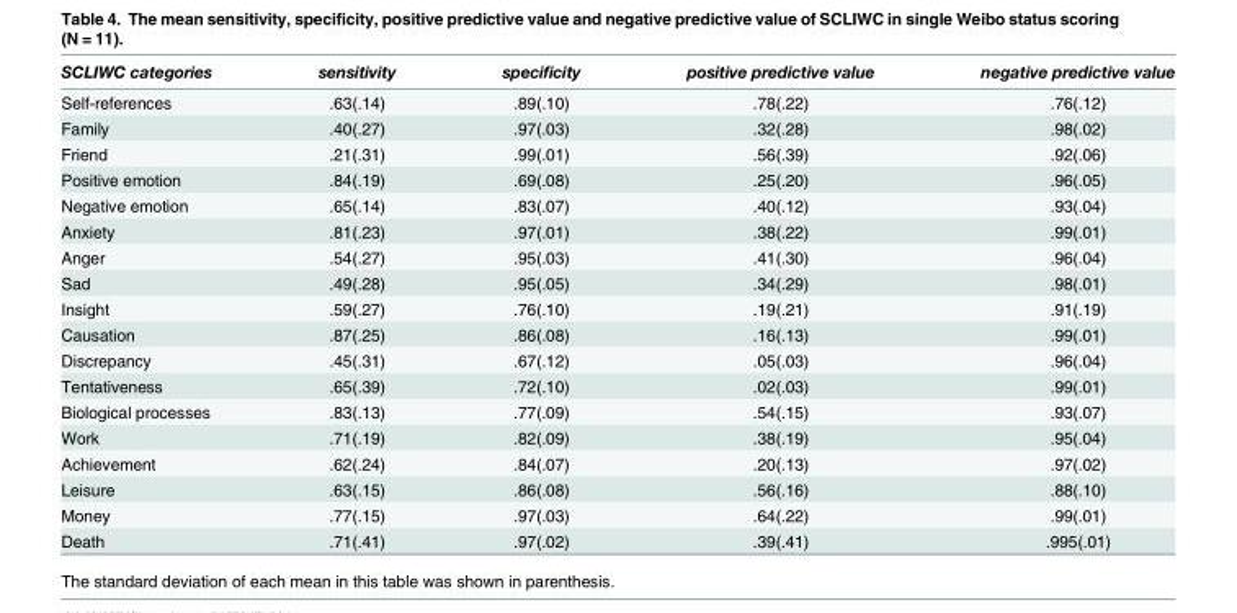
<table><thead><tr><td>SCLIWC categories</td><td>sensitivity</td><td>specificity</td><td>positive predictive value</td><td>negative predictive value</td></tr></thead><tbody><tr><td>Self-references</td><td>.63(.14)</td><td>.89(.10)</td><td>.78(.22)</td><td>.76(.12)</td></tr><tr><td>Family</td><td>.40(.27)</td><td>.97(.03)</td><td>.32(.28)</td><td>.98(.02)</td></tr><tr><td>Friend</td><td>.21(.31)</td><td>.99(.01)</td><td>.56(.39)</td><td>.92(.06)</td></tr><tr><td>Positive emotion</td><td>.84(.19)</td><td>.69(.08)</td><td>.25(.20)</td><td>.96(.05)</td></tr><tr><td>Negative emotion</td><td>.65(.14)</td><td>.83(.07)</td><td>.40(.12)</td><td>.93(.04)</td></tr><tr><td>Anxiety</td><td>.81(.23)</td><td>.97(.01)</td><td>.38(.22)</td><td>.99(.01)</td></tr><tr><td>Anger</td><td>.54(.27)</td><td>.95(.03)</td><td>.41(.30)</td><td>.96(.04)</td></tr><tr><td>Sad</td><td>.49(.28)</td><td>.95(.05)</td><td>.34(.29)</td><td>.98(.01)</td></tr><tr><td>Insight</td><td>.59(.27)</td><td>.76(.10)</td><td>.19(.21)</td><td>.91(.19)</td></tr><tr><td>Causation</td><td>.87(.25)</td><td>.86(.08)</td><td>.16(.13)</td><td>.99(.01)</td></tr><tr><td>Discrepancy</td><td>.45(.31)</td><td>.67(.12)</td><td>.05(.03)</td><td>.96(.04)</td></tr><tr><td>Tentativeness</td><td>.65(.39)</td><td>.72(.10)</td><td>.02(.03)</td><td>.99(.01)</td></tr><tr><td>Biological processes</td><td>.83(.13)</td><td>.77(.09)</td><td>.54(.15)</td><td>.93(.07)</td></tr><tr><td>Work</td><td>.71(.19)</td><td>.82(.09)</td><td>.38(.19)</td><td>.95(.04)</td></tr><tr><td>Achievement</td><td>.62(.24)</td><td>.84(.07)</td><td>.20(.13)</td><td>.97(.02)</td></tr><tr><td>Leisure</td><td>.63(.15)</td><td>.86(.08)</td><td>.56(.16)</td><td>.88(.10)</td></tr><tr><td>Money</td><td>.77(.15)</td><td>.97(.03)</td><td>.64(.22)</td><td>.99(.01)</td></tr><tr><td>Death</td><td>.71(.41)</td><td>.97(.02)</td><td>.39(.41)</td><td>.995(.01)</td></tr></tbody></table>